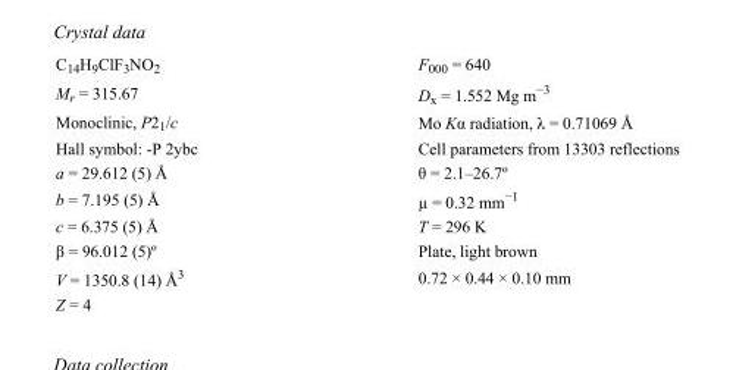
<table><tbody><tr><td>C<sub>14</sub>H<sub>9</sub>ClF<sub>3</sub>NO<sub>2</sub></td><td>F000 = 640</td></tr><tr><td>M<sub>r</sub> = 315.67</td><td>D<sub>x</sub> = 1.552 Mg m<sup>−3</sup></td></tr><tr><td>Monoclinic, P2<sub>1</sub>/c</td><td>Mo Kα radiation, λ = 0.71069 Å</td></tr><tr><td>Hall symbol: -P 2ybc</td><td>Cell parameters from 13303 reflections</td></tr><tr><td>a = 29.612 (5) Å</td><td>θ = 2.1–26.7º</td></tr><tr><td>b = 7.195 (5) Å</td><td>µ = 0.32 mm<sup>−1</sup></td></tr><tr><td>c = 6.375 (5) Å</td><td>T = 296 K</td></tr><tr><td>β = 96.012 (5)º</td><td>Plate, light brown</td></tr><tr><td>V = 1350.8 (14) Å<sup>3</sup></td><td>0.72 × 0.44 × 0.10 mm</td></tr><tr><td>Z = 4</td><td></td></tr></tbody></table>